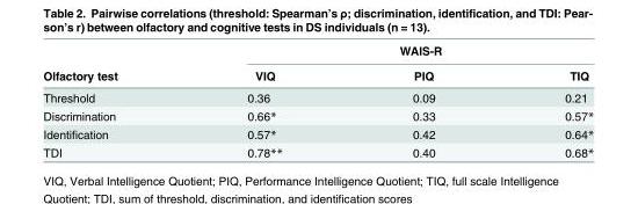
<table><thead><tr><td rowspan="2">Olfactory test</td><td colspan="3">WAIS-R</td></tr><tr><td>VIQ</td><td>PIQ</td><td>TIQ</td></tr></thead><tbody><tr><td>Threshold</td><td>0.36</td><td>0.09</td><td>0.21</td></tr><tr><td>Discrimination</td><td>0.66*</td><td>0.33</td><td>0.57*</td></tr><tr><td>Identification</td><td>0.57*</td><td>0.42</td><td>0.64*</td></tr><tr><td>TDI</td><td>0.78**</td><td>0.40</td><td>0.68*</td></tr></tbody></table>